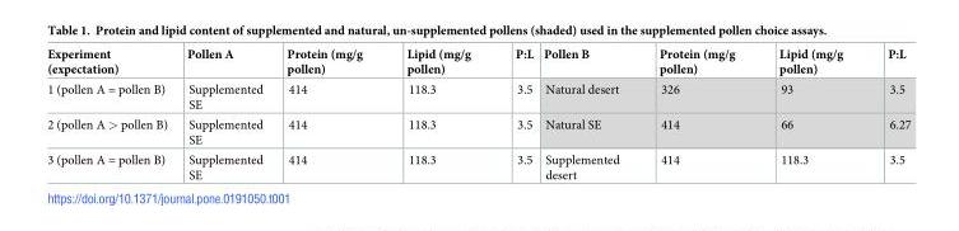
<table><thead><tr><td>Experiment (expectation)</td><td>Pollen A</td><td>Protein (mg/g pollen)</td><td>Lipid (mg/g pollen)</td><td>P:L</td><td>Pollen B</td><td>Protein (mg/g pollen)</td><td>Lipid (mg/g pollen)</td><td>P:L</td></tr></thead><tbody><tr><td>1 (pollen A = pollen B)</td><td>Supplemented SE</td><td>414</td><td>118.3</td><td>3.5</td><td>Natural desert</td><td>326</td><td>93</td><td>3.5</td></tr><tr><td>2 (pollen A &gt; pollen B)</td><td>Supplemented SE</td><td>414</td><td>118.3</td><td>3.5</td><td>Natural SE</td><td>414</td><td>66</td><td>6.27</td></tr><tr><td>3 (pollen A = pollen B)</td><td>Supplemented SE</td><td>414</td><td>118.3</td><td>3.5</td><td>Supplemented desert</td><td>414</td><td>118.3</td><td>3.5</td></tr></tbody></table>